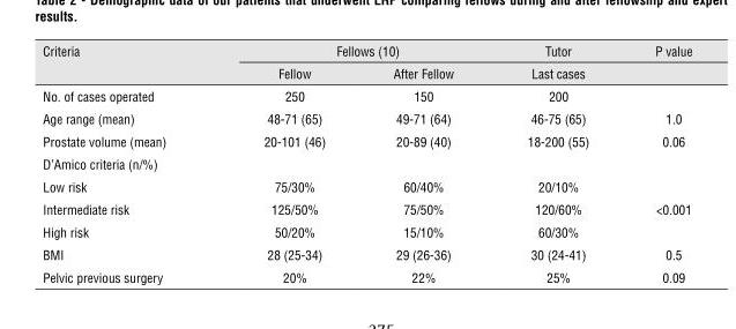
<table><thead><tr><td rowspan="2">Criteria</td><td colspan="2">Fellows (10)</td><td rowspan="2">Tutor Last cases</td><td rowspan="2">P value</td></tr><tr><td>Fellow</td><td>After Fellow</td></tr></thead><tbody><tr><td>No. of cases operated</td><td>250</td><td>150</td><td>200</td><td></td></tr><tr><td>Age range (mean)</td><td>48-71 (65)</td><td>49-71 (64)</td><td>46-75 (65)</td><td>1.0</td></tr><tr><td>Prostate volume (mean)</td><td>20-101 (46)</td><td>20-89 (40)</td><td>18-200 (55)</td><td>0.06</td></tr><tr><td colspan="5">D’Amico criteria (n/%)</td></tr><tr><td>Low risk</td><td>75/30%</td><td>60/40%</td><td>20/10%</td><td></td></tr><tr><td>Intermediate risk</td><td>125/50%</td><td>75/50%</td><td>120/60%</td><td>&lt;0.001</td></tr><tr><td>High risk</td><td>50/20%</td><td>15/10%</td><td>60/30%</td><td></td></tr><tr><td>BMI</td><td>28 (25-34)</td><td>29 (26-36)</td><td>30 (24-41)</td><td>0.5</td></tr><tr><td>Pelvic previous surgery</td><td>20%</td><td>22%</td><td>25%</td><td>0.09</td></tr></tbody></table>